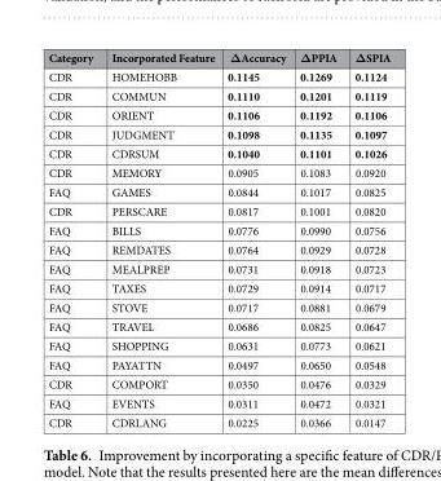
<table><thead><tr><td>Category</td><td>Incorporated Feature</td><td>ΔAccuracy</td><td>ΔPPIA</td><td>ΔSPIA</td></tr></thead><tbody><tr><td>CDR</td><td>HOMEHOBB</td><td>0.1145</td><td>0.1269</td><td>0.1124</td></tr><tr><td>CDR</td><td>COMMUN</td><td>0.1110</td><td>0.1201</td><td>0.1119</td></tr><tr><td>CDR</td><td>ORIENT</td><td>0.1106</td><td>0.1192</td><td>0.1106</td></tr><tr><td>CDR</td><td>JUDGMENT</td><td>0.1098</td><td>0.1135</td><td>0.1097</td></tr><tr><td>CDR</td><td>CDRSUM</td><td>0.1040</td><td>0.1101</td><td>0.1026</td></tr><tr><td>CDR</td><td>MEMORY</td><td>0.0905</td><td>0.1083</td><td>0.0920</td></tr><tr><td>FAQ</td><td>GAMES</td><td>0.0844</td><td>0.1017</td><td>0.0825</td></tr><tr><td>CDR</td><td>PERSCARE</td><td>0.0817</td><td>0.1001</td><td>0.0820</td></tr><tr><td>FAQ</td><td>BILLS</td><td>0.0776</td><td>0.0990</td><td>0.0756</td></tr><tr><td>FAQ</td><td>REMDATES</td><td>0.0764</td><td>0.0929</td><td>0.0728</td></tr><tr><td>FAQ</td><td>MEALPREP</td><td>0.0731</td><td>0.0918</td><td>0.0723</td></tr><tr><td>FAQ</td><td>TAXES</td><td>0.0729</td><td>0.0914</td><td>0.0717</td></tr><tr><td>FAQ</td><td>STOVE</td><td>0.0717</td><td>0.0881</td><td>0.0679</td></tr><tr><td>FAQ</td><td>TRAVEL</td><td>0.0686</td><td>0.0825</td><td>0.0647</td></tr><tr><td>FAQ</td><td>SHOPPING</td><td>0.0631</td><td>0.0773</td><td>0.0621</td></tr><tr><td>FAQ</td><td>PAYATTN</td><td>0.0497</td><td>0.0650</td><td>0.0548</td></tr><tr><td>CDR</td><td>COMPORT</td><td>0.0350</td><td>0.0476</td><td>0.0329</td></tr><tr><td>FAQ</td><td>EVENTS</td><td>0.0311</td><td>0.0472</td><td>0.0321</td></tr><tr><td>CDR</td><td>CDRLANG</td><td>0.0225</td><td>0.0366</td><td>0.0147</td></tr></tbody></table>